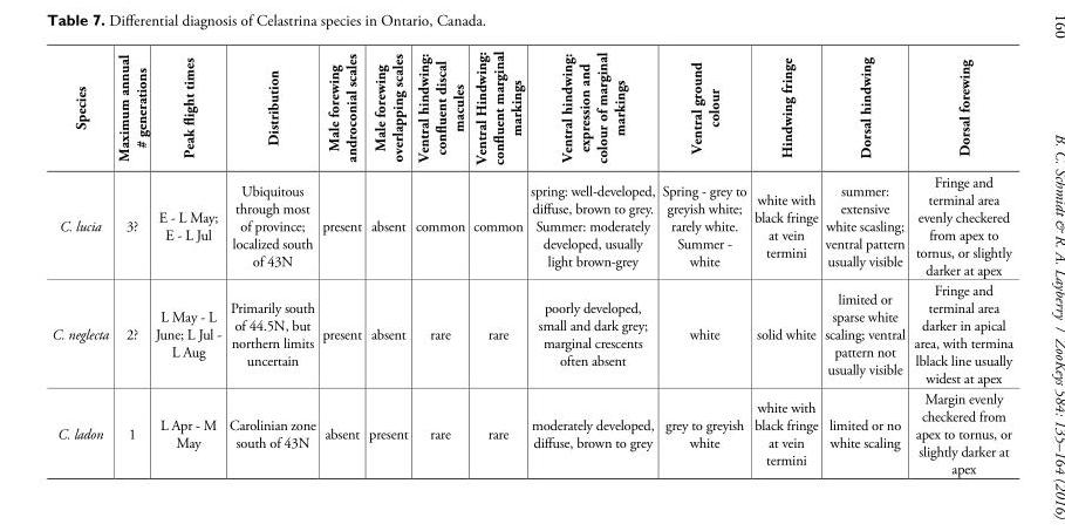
<table><thead><tr><td>Species</td><td>Maximum annual # generations</td><td>Peak flight times</td><td>Distribution</td><td>Male forewing androconial scales</td><td>Male forewing overlapping scales</td><td>Ventral hindwing: confluent discal macules</td><td>Ventral Hindwing: confluent marginal markings</td><td>Ventral hindwing: expression and colour of marginal markings</td><td>Ventral ground colour</td><td>Hindwing fringe</td><td>Dorsal hindwing</td><td>Dorsal forewing</td></tr></thead><tbody><tr><td>C. lucia</td><td>3?</td><td>E - L May; E - L Jul</td><td>Ubiquitous through most of province; localized south of 43N</td><td>present</td><td>absent</td><td>common</td><td>common</td><td>spring: well-developed, diffuse, brown to grey. Summer: moderately developed, usually light brown-grey</td><td>Spring - grey to greyish white; rarely white. Summer - white</td><td>white with black fringe at vein termini</td><td>summer: extensive white scasling; ventral pattern usually visible</td><td>Fringe and terminal area evenly checkered from apex to tornus, or slightly darker at apex</td></tr><tr><td>C. neglecta</td><td>2?</td><td>L May - L June; L Jul - L Aug</td><td>Primarily south of 44.5N, but northern limits uncertain</td><td>present</td><td>absent</td><td>rare</td><td>rare</td><td>poorly developed, small and dark grey; marginal crescents often absent</td><td>white</td><td>solid white</td><td>limited or sparse white scaling; ventral pattern not usually visible</td><td>Fringe and terminal area darker in apical area, with termina lblack line usually widest at apex</td></tr><tr><td>C. ladon</td><td>1</td><td>L Apr - M May</td><td>Carolinian zone south of 43N</td><td>absent</td><td>present</td><td>rare</td><td>rare</td><td>moderately developed, diffuse, brown to grey</td><td>grey to greyish white</td><td>white with black fringe at vein termini</td><td>limited or no white scaling</td><td>Margin evenly checkered from apex to tornus, or slightly darker at apex</td></tr></tbody></table>